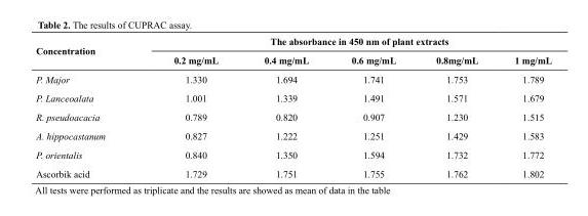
<table><thead><tr><td rowspan="2">Concentration</td><td colspan="5">The absorbance in 450 nm of plant extracts</td></tr><tr><td>0.2 mg/mL</td><td>0.4 mg/mL</td><td>0.6 mg/mL</td><td>0.8mg/mL</td><td>1 mg/mL</td></tr></thead><tbody><tr><td>P. Major</td><td>1.330</td><td>1.694</td><td>1.741</td><td>1.753</td><td>1.789</td></tr><tr><td>P. Lanceoalata</td><td>1.001</td><td>1.339</td><td>1.491</td><td>1.571</td><td>1.679</td></tr><tr><td>R. pseudoacacia</td><td>0.789</td><td>0.820</td><td>0.907</td><td>1.230</td><td>1.515</td></tr><tr><td>A. hippocastanum</td><td>0.827</td><td>1.222</td><td>1.251</td><td>1.429</td><td>1.583</td></tr><tr><td>P. orientalis</td><td>0.840</td><td>1.350</td><td>1.594</td><td>1.732</td><td>1.772</td></tr><tr><td>Ascorbik acid</td><td>1.729</td><td>1.751</td><td>1.755</td><td>1.762</td><td>1.802</td></tr></tbody></table>